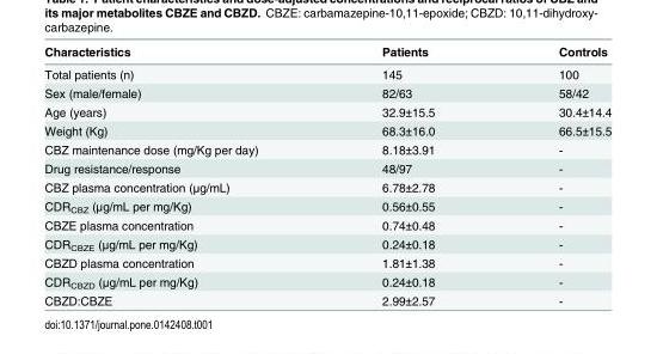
<table><thead><tr><td>Characteristics</td><td>Patients</td><td>Controls</td></tr></thead><tbody><tr><td>Total patients (n)</td><td>145</td><td>100</td></tr><tr><td>Sex (male/female)</td><td>82/63</td><td>58/42</td></tr><tr><td>Age (years)</td><td>32.9±15.5</td><td>30.4±14.4</td></tr><tr><td>Weight (Kg)</td><td>68.3±16.0</td><td>66.5±15.5</td></tr><tr><td>CBZ maintenance dose (mg/Kg per day)</td><td>8.18±3.91</td><td>-</td></tr><tr><td>Drug resistance/response</td><td>48/97</td><td>-</td></tr><tr><td>CBZ plasma concentration (μg/mL)</td><td>6.78±2.78</td><td>-</td></tr><tr><td>CDR<sub>CBZ</sub> (μg/mL per mg/Kg)</td><td>0.56±0.55</td><td>-</td></tr><tr><td>CBZE plasma concentration</td><td>0.74±0.48</td><td>-</td></tr><tr><td>CDR<sub>CBZE</sub> (μg/mL per mg/Kg)</td><td>0.24±0.18</td><td>-</td></tr><tr><td>CBZD plasma concentration</td><td>1.81±1.38</td><td>-</td></tr><tr><td>CDR<sub>CBZD</sub> (μg/mL per mg/Kg)</td><td>0.24±0.18</td><td>-</td></tr><tr><td>CBZD:CBZE</td><td>2.99±2.57</td><td>-</td></tr></tbody></table>